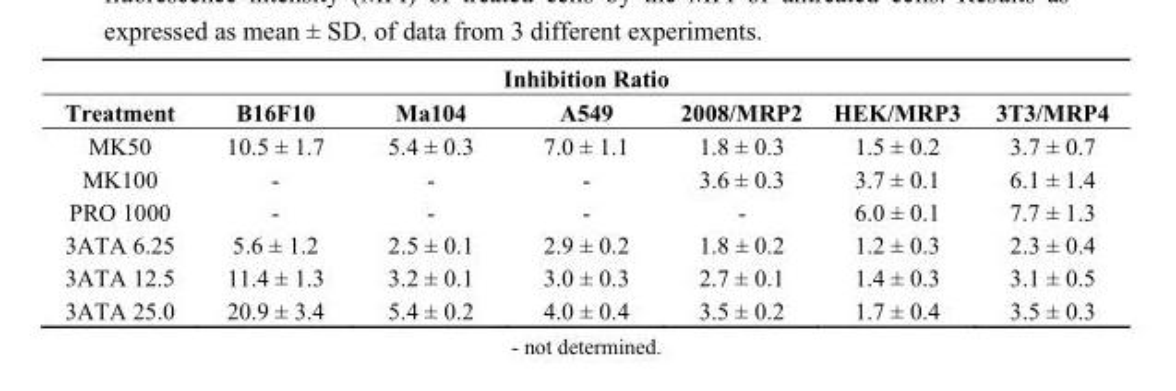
<table><thead><tr><td colspan="7">Inhibition Ratio</td></tr><tr><td>Treatment</td><td>B16F10</td><td>Ma104</td><td>A549</td><td>2008/MRP2</td><td>HEK/MRP3</td><td>3T3/MRP4</td></tr></thead><tbody><tr><td>MK50</td><td>10.5 ± 1.7</td><td>5.4 ± 0.3</td><td>7.0 ± 1.1</td><td>1.8 ± 0.3</td><td>1.5 ± 0.2</td><td>3.7 ± 0.7</td></tr><tr><td>MK100</td><td>-</td><td>-</td><td>-</td><td>3.6 ± 0.3</td><td>3.7 ± 0.1</td><td>6.1 ± 1.4</td></tr><tr><td>PRO 1000</td><td>-</td><td>-</td><td>-</td><td>-</td><td>6.0 ± 0.1</td><td>7.7 ± 1.3</td></tr><tr><td>3ATA 6.25</td><td>5.6 ± 1.2</td><td>2.5 ± 0.1</td><td>2.9 ± 0.2</td><td>1.8 ± 0.2</td><td>1.2 ± 0.3</td><td>2.3 ± 0.4</td></tr><tr><td>3ATA 12.5</td><td>11.4 ± 1.3</td><td>3.2 ± 0.1</td><td>3.0 ± 0.3</td><td>2.7 ± 0.1</td><td>1.4 ± 0.3</td><td>3.1 ± 0.5</td></tr><tr><td>3ATA 25.0</td><td>20.9 ± 3.4</td><td>5.4 ± 0.2</td><td>4.0 ± 0.4</td><td>3.5 ± 0.2</td><td>1.7 ± 0.4</td><td>3.5 ± 0.3</td></tr></tbody></table>